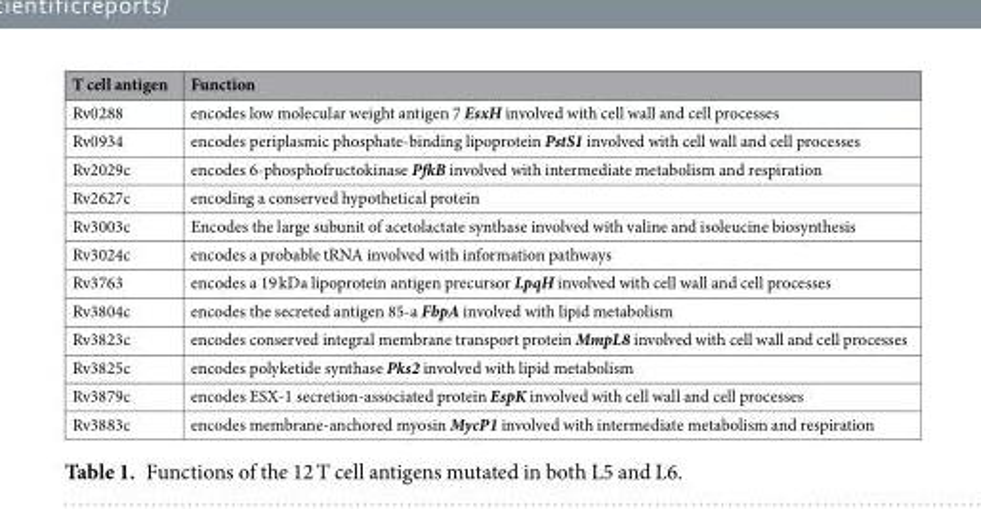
<table><thead><tr><td>T cell antigen</td><td>Function</td></tr></thead><tbody><tr><td>Rv0288</td><td>encodes low molecular weight antigen 7 EsxH involved with cell wall and cell processes</td></tr><tr><td>Rv0934</td><td>encodes periplasmic phosphate-binding lipoprotein PstS1 involved with cell wall and cell processes</td></tr><tr><td>Rv2029c</td><td>encodes 6-phosphofructokinase PfkB involved with intermediate metabolism and respiration</td></tr><tr><td>Rv2627c</td><td>encoding a conserved hypothetical protein</td></tr><tr><td>Rv3003c</td><td>Encodes the large subunit of acetolactate synthase involved with valine and isoleucine biosynthesis</td></tr><tr><td>Rv3024c</td><td>encodes a probable tRNA involved with information pathways</td></tr><tr><td>Rv3763</td><td>encodes a 19 kDa lipoprotein antigen precursor LpqH involved with cell wall and cell processes</td></tr><tr><td>Rv3804c</td><td>encodes the secreted antigen 85-a FbpA involved with lipid metabolism</td></tr><tr><td>Rv3823c</td><td>encodes conserved integral membrane transport protein MmpL8 involved with cell wall and cell processes</td></tr><tr><td>Rv3825c</td><td>encodes polyketide synthase Pks2 involved with lipid metabolism</td></tr><tr><td>Rv3879c</td><td>encodes ESX-1 secretion-associated protein EspK involved with cell wall and cell processes</td></tr><tr><td>Rv3883c</td><td>encodes membrane-anchored myosin MycP1 involved with intermediate metabolism and respiration</td></tr></tbody></table>